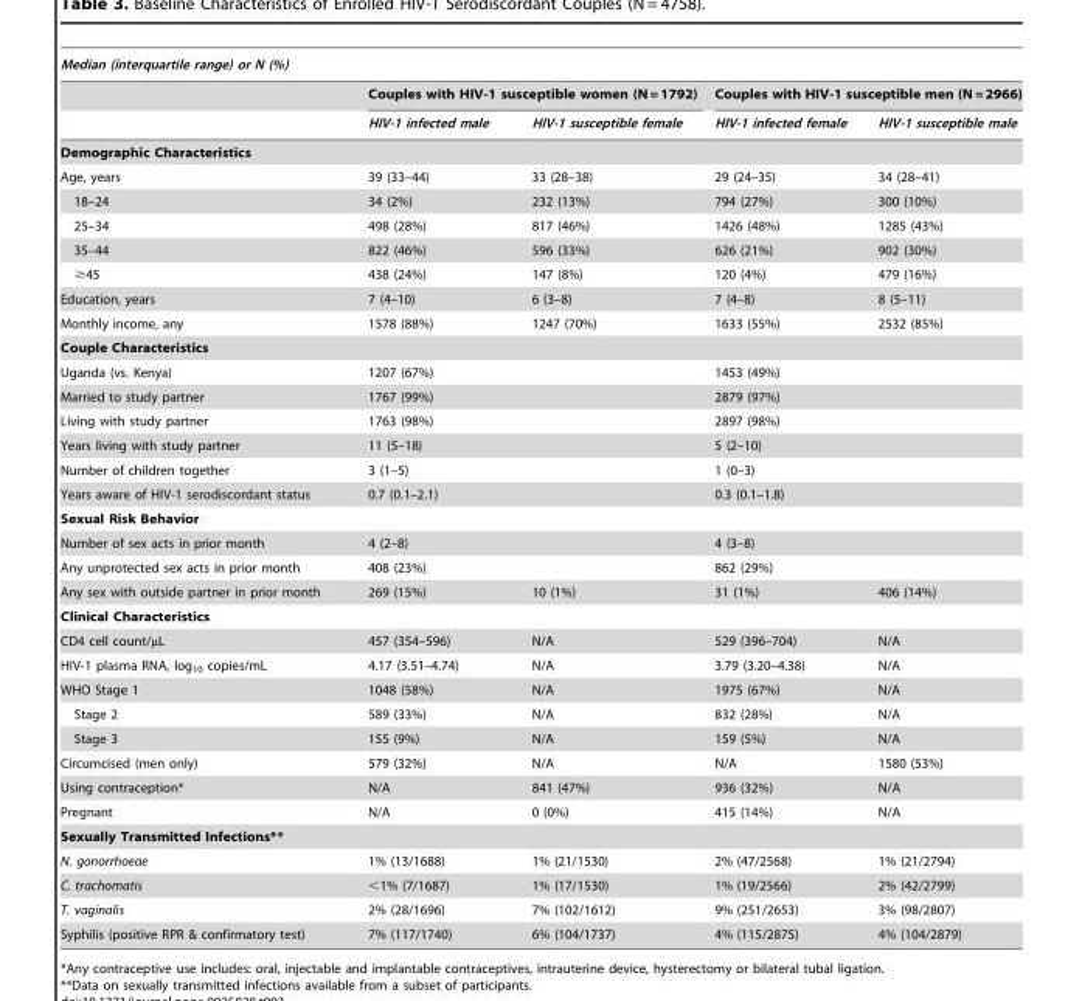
<table><thead><tr><td colspan="5">Median (interquartile range) or N (%)</td></tr><tr><td rowspan="2"></td><td colspan="2">Couples with HIV-1 susceptible women (N = 1792)</td><td colspan="2">Couples with HIV-1 susceptible men (N = 2966)</td></tr><tr><td>HIV-1 infected male</td><td>HIV-1 susceptible female</td><td>HIV-1 infected female</td><td>HIV-1 susceptible male</td></tr></thead><tbody><tr><td colspan="5">Demographic Characteristics</td></tr><tr><td>Age, years</td><td>39 (33–44)</td><td>33 (28–38)</td><td>29 (24–35)</td><td>34 (28–41)</td></tr><tr><td>18–24</td><td>34 (2%)</td><td>232 (13%)</td><td>794 (27%)</td><td>300 (10%)</td></tr><tr><td>25–34</td><td>498 (28%)</td><td>817 (46%)</td><td>1426 (48%)</td><td>1285 (43%)</td></tr><tr><td>35–44</td><td>822 (46%)</td><td>596 (33%)</td><td>626 (21%)</td><td>902 (30%)</td></tr><tr><td>≥45</td><td>438 (24%)</td><td>147 (8%)</td><td>120 (4%)</td><td>479 (16%)</td></tr><tr><td>Education, years</td><td>7 (4–10)</td><td>6 (3–8)</td><td>7 (4–8)</td><td>8 (5–11)</td></tr><tr><td>Monthly income, any</td><td>1578 (88%)</td><td>1247 (70%)</td><td>1633 (55%)</td><td>2532 (85%)</td></tr><tr><td colspan="5">Couple Characteristics</td></tr><tr><td>Uganda (vs. Kenya)</td><td colspan="2">1207 (67%)</td><td colspan="2">1453 (49%)</td></tr><tr><td>Married to study partner</td><td colspan="2">1767 (99%)</td><td colspan="2">2879 (97%)</td></tr><tr><td>Living with study partner</td><td colspan="2">1763 (98%)</td><td colspan="2">2897 (98%)</td></tr><tr><td>Years living with study partner</td><td colspan="2">11 (5–18)</td><td colspan="2">5 (2–10)</td></tr><tr><td>Number of children together</td><td colspan="2">3 (1–5)</td><td colspan="2">1 (0–3)</td></tr><tr><td>Years aware of HIV-1 serodiscordant status</td><td colspan="2">0.7 (0.1–2.1)</td><td colspan="2">0.3 (0.1–1.8)</td></tr><tr><td colspan="5">Sexual Risk Behavior</td></tr><tr><td>Number of sex acts in prior month</td><td colspan="2">4 (2–8)</td><td colspan="2">4 (3–8)</td></tr><tr><td>Any unprotected sex acts in prior month</td><td colspan="2">408 (23%)</td><td colspan="2">862 (29%)</td></tr><tr><td>Any sex with outside partner in prior month</td><td>269 (15%)</td><td>10 (1%)</td><td>31 (1%)</td><td>406 (14%)</td></tr><tr><td colspan="5">Clinical Characteristics</td></tr><tr><td>CD4 cell count/µL</td><td>457 (354–596)</td><td>N/A</td><td>529 (396–704)</td><td>N/A</td></tr><tr><td>HIV-1 plasma RNA, log<sub>10</sub> copies/mL</td><td>4.17 (3.51–4.74)</td><td>N/A</td><td>3.79 (3.20–4.38)</td><td>N/A</td></tr><tr><td>WHO Stage 1</td><td>1048 (58%)</td><td>N/A</td><td>1975 (67%)</td><td>N/A</td></tr><tr><td>Stage 2</td><td>589 (33%)</td><td>N/A</td><td>832 (28%)</td><td>N/A</td></tr><tr><td>Stage 3</td><td>155 (9%)</td><td>N/A</td><td>159 (5%)</td><td>N/A</td></tr><tr><td>Circumcised (men only)</td><td>579 (32%)</td><td>N/A</td><td>N/A</td><td>1580 (53%)</td></tr><tr><td>Using contraception*</td><td>N/A</td><td>841 (47%)</td><td>936 (32%)</td><td>N/A</td></tr><tr><td>Pregnant</td><td>N/A</td><td>0 (0%)</td><td>415 (14%)</td><td>N/A</td></tr><tr><td colspan="5">Sexually Transmitted Infections**</td></tr><tr><td>N. gonorrhoeae</td><td>1% (13/1688)</td><td>1% (21/1530)</td><td>2% (47/2568)</td><td>1% (21/2794)</td></tr><tr><td>C. trachomatis</td><td>&lt;1% (7/1687)</td><td>1% (17/1530)</td><td>1% (19/2566)</td><td>2% (42/2799)</td></tr><tr><td>T. vaginalis</td><td>2% (28/1696)</td><td>7% (102/1612)</td><td>9% (251/2653)</td><td>3% (98/2807)</td></tr><tr><td>Syphilis (positive RPR &amp; confirmatory test)</td><td>7% (117/1740)</td><td>6% (104/1737)</td><td>4% (115/2875)</td><td>4% (104/2879)</td></tr></tbody></table>